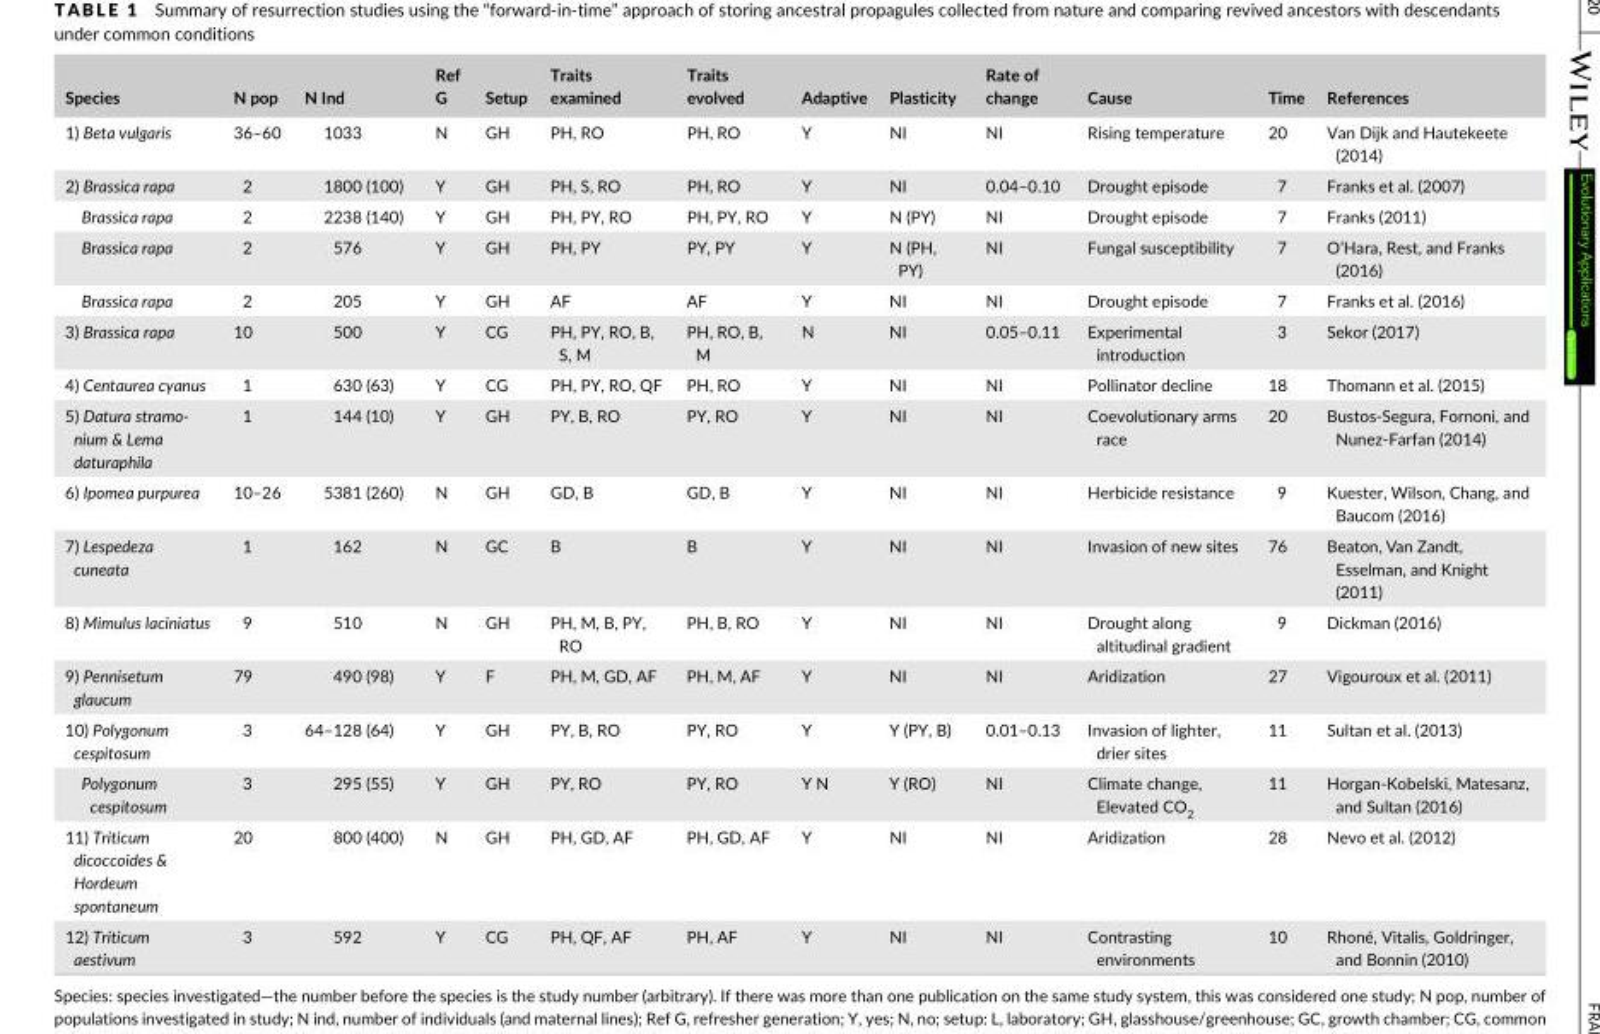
<table><thead><tr><td>Species</td><td>N pop</td><td>N Ind</td><td>Ref G</td><td>Setup</td><td>Traits examined</td><td>Traits evolved</td><td>Adaptive</td><td>Plasticity</td><td>Rate of change</td><td>Cause</td><td>Time</td><td>References</td></tr></thead><tbody><tr><td>1) Beta vulgaris</td><td>36–60</td><td>1033</td><td>N</td><td>GH</td><td>PH, RO</td><td>PH, RO</td><td>Y</td><td>NI</td><td>NI</td><td>Rising temperature</td><td>20</td><td>Van Dijk and Hautekeete (2014)</td></tr><tr><td>2) Brassica rapa</td><td>2</td><td>1800 (100)</td><td>Y</td><td>GH</td><td>PH, S, RO</td><td>PH, RO</td><td>Y</td><td>NI</td><td>0.04–0.10</td><td>Drought episode</td><td>7</td><td>Franks et al. (2007)</td></tr><tr><td>Brassica rapa</td><td>2</td><td>2238 (140)</td><td>Y</td><td>GH</td><td>PH, PY, RO</td><td>PH, PY, RO</td><td>Y</td><td>N (PY)</td><td>NI</td><td>Drought episode</td><td>7</td><td>Franks (2011)</td></tr><tr><td>Brassica rapa</td><td>2</td><td>576</td><td>Y</td><td>GH</td><td>PH, PY</td><td>PY, PY</td><td>Y</td><td>N (PH, PY)</td><td>NI</td><td>Fungal susceptibility</td><td>7</td><td>O’Hara, Rest, and Franks (2016)</td></tr><tr><td>Brassica rapa</td><td>2</td><td>205</td><td>Y</td><td>GH</td><td>AF</td><td>AF</td><td>Y</td><td>NI</td><td>NI</td><td>Drought episode</td><td>7</td><td>Franks et al. (2016)</td></tr><tr><td>3) Brassica rapa</td><td>10</td><td>500</td><td>Y</td><td>CG</td><td>PH, PY, RO, B, S, M</td><td>PH, RO, B, M</td><td>N</td><td>NI</td><td>0.05–0.11</td><td>Experimental introduction</td><td>3</td><td>Sekor (2017)</td></tr><tr><td>4) Centaurea cyanus</td><td>1</td><td>630 (63)</td><td>Y</td><td>CG</td><td>PH, PY, RO, QF</td><td>PH, RO</td><td>Y</td><td>NI</td><td>NI</td><td>Pollinator decline</td><td>18</td><td>Thomann et al. (2015)</td></tr><tr><td>5) Datura stramo- nium &amp; Lema daturaphila</td><td>1</td><td>144 (10)</td><td>Y</td><td>GH</td><td>PY, B, RO</td><td>PY, RO</td><td>Y</td><td>NI</td><td>NI</td><td>Coevolutionary arms race</td><td>20</td><td>Bustos- Segura, Fornoni, and Nunez- Farfan (2014)</td></tr><tr><td>6) Ipomea purpurea</td><td>10–26</td><td>5381 (260)</td><td>N</td><td>GH</td><td>GD, B</td><td>GD, B</td><td>Y</td><td>NI</td><td>NI</td><td>Herbicide resistance</td><td>9</td><td>Kuester, Wilson, Chang, and Baucom (2016)</td></tr><tr><td>7) Lespedeza cuneata</td><td>1</td><td>162</td><td>N</td><td>GC</td><td>B</td><td>B</td><td>Y</td><td>NI</td><td>NI</td><td>Invasion of new sites</td><td>76</td><td>Beaton, Van Zandt, Esselman, and Knight (2011)</td></tr><tr><td>8) Mimulus laciniatus</td><td>9</td><td>510</td><td>N</td><td>GH</td><td>PH, M, B, PY, RO</td><td>PH, B, RO</td><td>Y</td><td>NI</td><td>NI</td><td>Drought along altitudinal gradient</td><td>9</td><td>Dickman (2016)</td></tr><tr><td>9) Pennisetum glaucum</td><td>79</td><td>490 (98)</td><td>Y</td><td>F</td><td>PH, M, GD, AF</td><td>PH, M, AF</td><td>Y</td><td>NI</td><td>NI</td><td>Aridization</td><td>27</td><td>Vigouroux et al. (2011)</td></tr><tr><td>10) Polygonum cespitosum</td><td>3</td><td>64–128 (64)</td><td>Y</td><td>GH</td><td>PY, B, RO</td><td>PY, RO</td><td>Y</td><td>Y (PY, B)</td><td>0.01–0.13</td><td>Invasion of lighter, drier sites</td><td>11</td><td>Sultan et al. (2013)</td></tr><tr><td>Polygonum cespitosum</td><td>3</td><td>295 (55)</td><td>Y</td><td>GH</td><td>PY, RO</td><td>PY, RO</td><td>Y N</td><td>Y (RO)</td><td>NI</td><td>Climate change, Elevated CO<sub>2</sub></td><td>11</td><td>Horgan- Kobelski, Matesanz, and Sultan (2016)</td></tr><tr><td>11) Triticum dicoccoides &amp; Hordeum spontaneum</td><td>20</td><td>800 (400)</td><td>N</td><td>GH</td><td>PH, GD, AF</td><td>PH, GD, AF</td><td>Y</td><td>NI</td><td>NI</td><td>Aridization</td><td>28</td><td>Nevo et al. (2012)</td></tr><tr><td>12) Triticum aestivum</td><td>3</td><td>592</td><td>Y</td><td>CG</td><td>PH, QF, AF</td><td>PH, AF</td><td>Y</td><td>NI</td><td>NI</td><td>Contrasting environments</td><td>10</td><td>Rhoné, Vitalis, Goldringer, and Bonnin (2010)</td></tr></tbody></table>